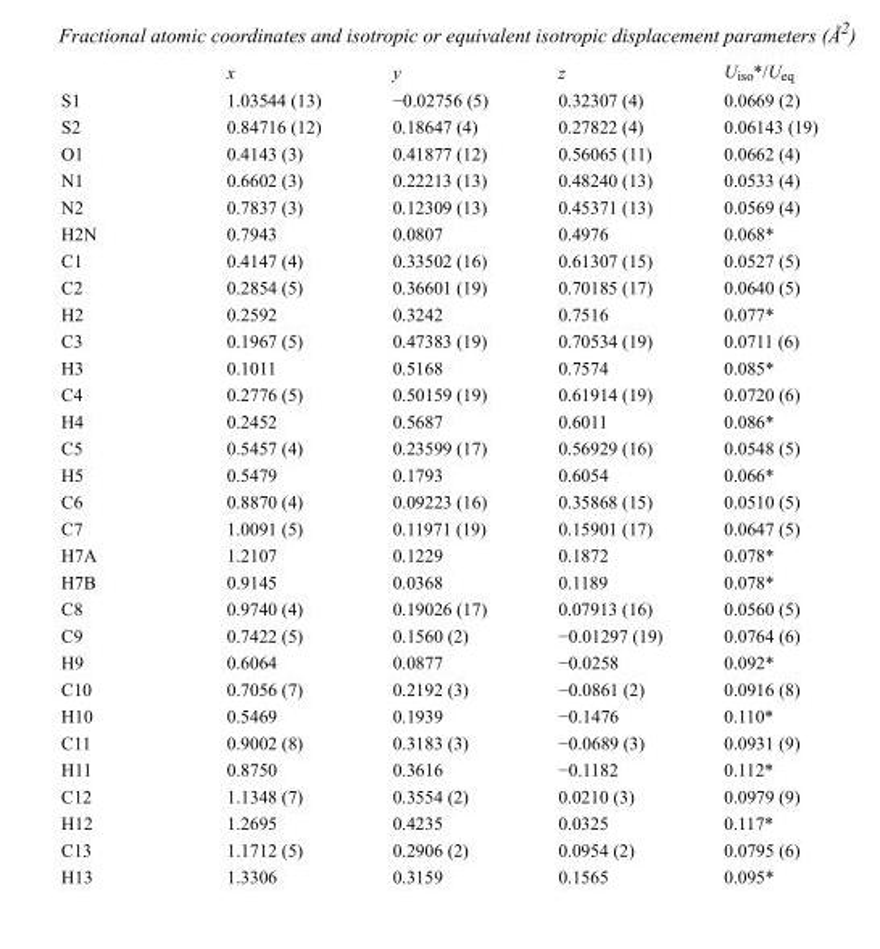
<table><thead><tr><td></td><td>x</td><td>y</td><td>z</td><td>U<sub>iso</sub>*/U<sub>eq</sub></td></tr></thead><tbody><tr><td>S1</td><td>1.03544 (13)</td><td>−0.02756 (5)</td><td>0.32307 (4)</td><td>0.0669 (2)</td></tr><tr><td>S2</td><td>0.84716 (12)</td><td>0.18647 (4)</td><td>0.27822 (4)</td><td>0.06143 (19)</td></tr><tr><td>O1</td><td>0.4143 (3)</td><td>0.41877 (12)</td><td>0.56065 (11)</td><td>0.0662 (4)</td></tr><tr><td>N1</td><td>0.6602 (3)</td><td>0.22213 (13)</td><td>0.48240 (13)</td><td>0.0533 (4)</td></tr><tr><td>N2</td><td>0.7837 (3)</td><td>0.12309 (13)</td><td>0.45371 (13)</td><td>0.0569 (4)</td></tr><tr><td>H2N</td><td>0.7943</td><td>0.0807</td><td>0.4976</td><td>0.068*</td></tr><tr><td>C1</td><td>0.4147 (4)</td><td>0.33502 (16)</td><td>0.61307 (15)</td><td>0.0527 (5)</td></tr><tr><td>C2</td><td>0.2854 (5)</td><td>0.36601 (19)</td><td>0.70185 (17)</td><td>0.0640 (5)</td></tr><tr><td>H2</td><td>0.2592</td><td>0.3242</td><td>0.7516</td><td>0.077*</td></tr><tr><td>C3</td><td>0.1967 (5)</td><td>0.47383 (19)</td><td>0.70534 (19)</td><td>0.0711 (6)</td></tr><tr><td>H3</td><td>0.1011</td><td>0.5168</td><td>0.7574</td><td>0.085*</td></tr><tr><td>C4</td><td>0.2776 (5)</td><td>0.50159 (19)</td><td>0.61914 (19)</td><td>0.0720 (6)</td></tr><tr><td>H4</td><td>0.2452</td><td>0.5687</td><td>0.6011</td><td>0.086*</td></tr><tr><td>C5</td><td>0.5457 (4)</td><td>0.23599 (17)</td><td>0.56929 (16)</td><td>0.0548 (5)</td></tr><tr><td>H5</td><td>0.5479</td><td>0.1793</td><td>0.6054</td><td>0.066*</td></tr><tr><td>C6</td><td>0.8870 (4)</td><td>0.09223 (16)</td><td>0.35868 (15)</td><td>0.0510 (5)</td></tr><tr><td>C7</td><td>1.0091 (5)</td><td>0.11971 (19)</td><td>0.15901 (17)</td><td>0.0647 (5)</td></tr><tr><td>H7A</td><td>1.2107</td><td>0.1229</td><td>0.1872</td><td>0.078*</td></tr><tr><td>H7B</td><td>0.9145</td><td>0.0368</td><td>0.1189</td><td>0.078*</td></tr><tr><td>C8</td><td>0.9740 (4)</td><td>0.19026 (17)</td><td>0.07913 (16)</td><td>0.0560 (5)</td></tr><tr><td>C9</td><td>0.7422 (5)</td><td>0.1560 (2)</td><td>−0.01297 (19)</td><td>0.0764 (6)</td></tr><tr><td>H9</td><td>0.6064</td><td>0.0877</td><td>−0.0258</td><td>0.092*</td></tr><tr><td>C10</td><td>0.7056 (7)</td><td>0.2192 (3)</td><td>−0.0861 (2)</td><td>0.0916 (8)</td></tr><tr><td>H10</td><td>0.5469</td><td>0.1939</td><td>−0.1476</td><td>0.110*</td></tr><tr><td>C11</td><td>0.9002 (8)</td><td>0.3183 (3)</td><td>−0.0689 (3)</td><td>0.0931 (9)</td></tr><tr><td>H11</td><td>0.8750</td><td>0.3616</td><td>−0.1182</td><td>0.112*</td></tr><tr><td>C12</td><td>1.1348 (7)</td><td>0.3554 (2)</td><td>0.0210 (3)</td><td>0.0979 (9)</td></tr><tr><td>H12</td><td>1.2695</td><td>0.4235</td><td>0.0325</td><td>0.117*</td></tr><tr><td>C13</td><td>1.1712 (5)</td><td>0.2906 (2)</td><td>0.0954 (2)</td><td>0.0795 (6)</td></tr><tr><td>H13</td><td>1.3306</td><td>0.3159</td><td>0.1565</td><td>0.095*</td></tr></tbody></table>